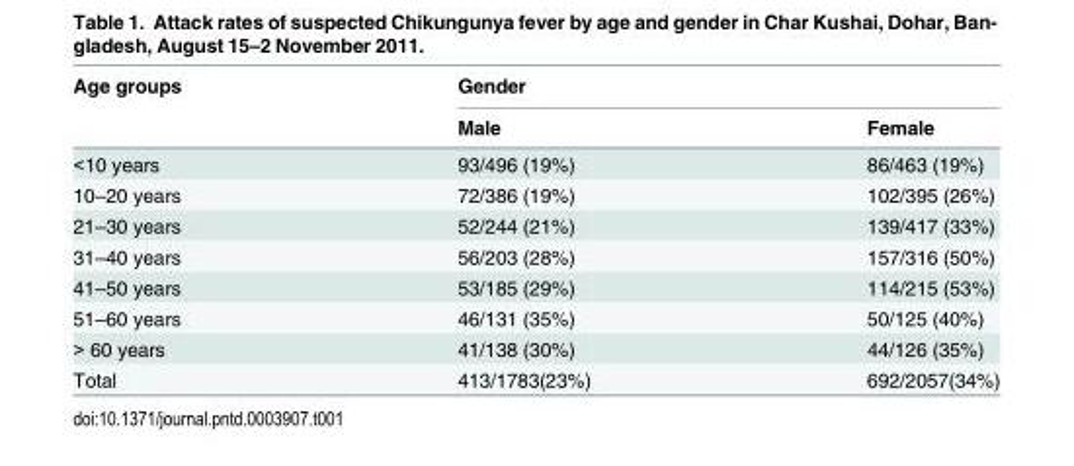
<table><thead><tr><td rowspan="2">Age groups</td><td colspan="2">Gender</td></tr><tr><td>Male</td><td>Female</td></tr></thead><tbody><tr><td>&lt;10 years</td><td>93/496 (19%)</td><td>86/463 (19%)</td></tr><tr><td>10–20 years</td><td>72/386 (19%)</td><td>102/395 (26%)</td></tr><tr><td>21–30 years</td><td>52/244 (21%)</td><td>139/417 (33%)</td></tr><tr><td>31–40 years</td><td>56/203 (28%)</td><td>157/316 (50%)</td></tr><tr><td>41–50 years</td><td>53/185 (29%)</td><td>114/215 (53%)</td></tr><tr><td>51–60 years</td><td>46/131 (35%)</td><td>50/125 (40%)</td></tr><tr><td>&gt; 60 years</td><td>41/138 (30%)</td><td>44/126 (35%)</td></tr><tr><td>Total</td><td>413/1783(23%)</td><td>692/2057(34%)</td></tr></tbody></table>